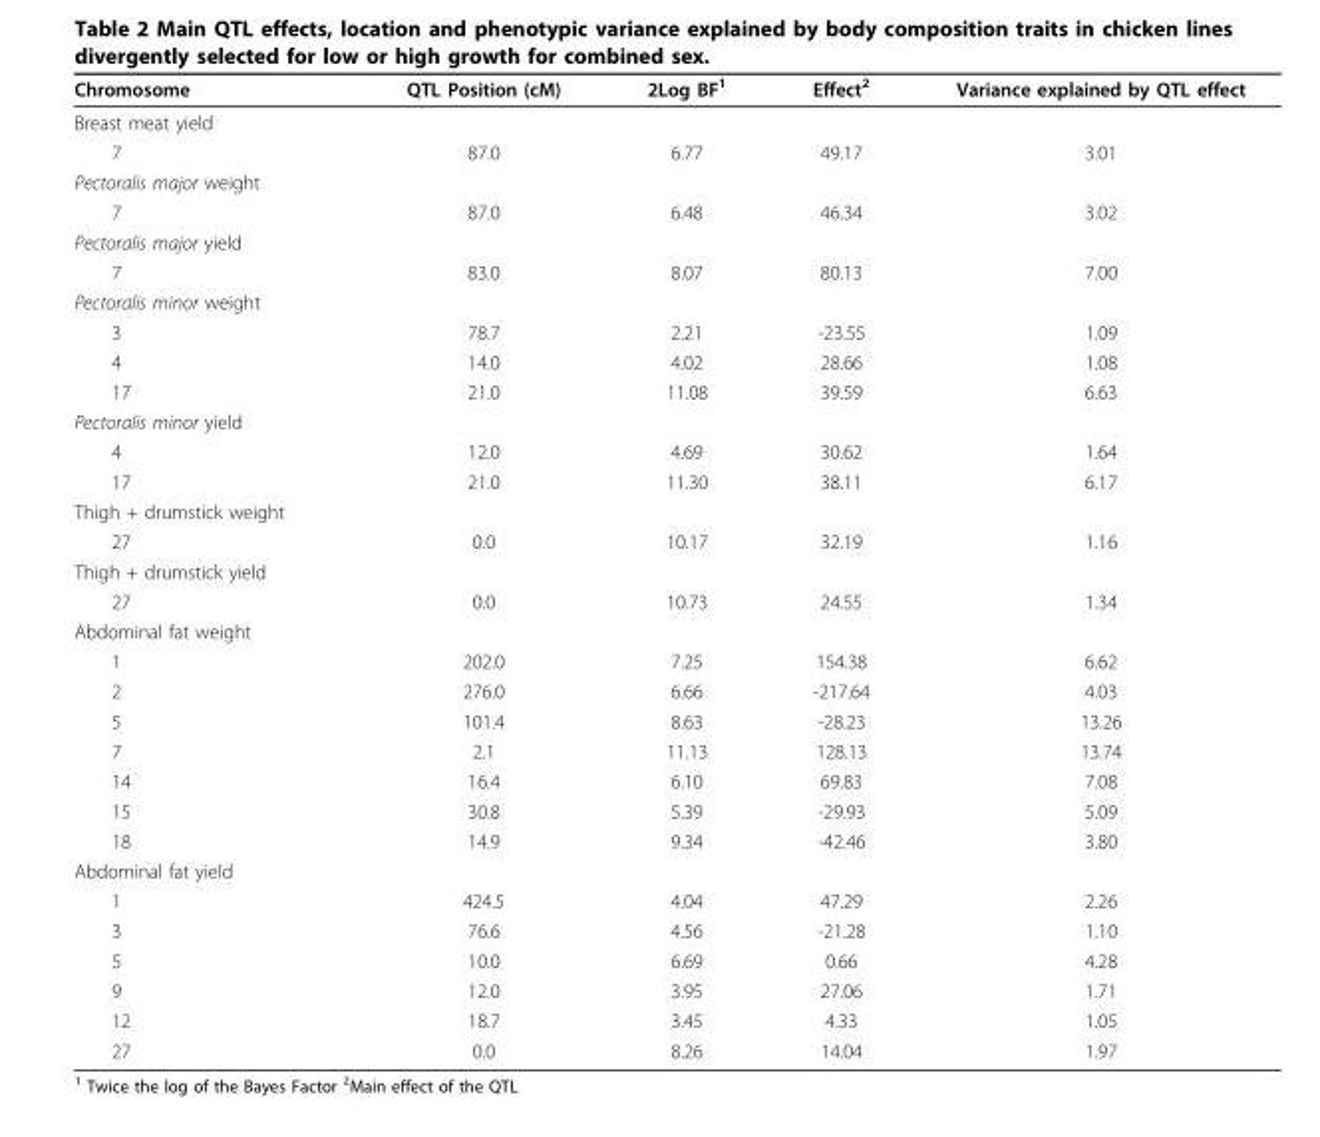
<table><thead><tr><td>Chromosome</td><td>QTL Position (cM)</td><td>2Log BF<sup>1</sup></td><td>Effect<sup>2</sup></td><td>Variance explained by QTL effect</td></tr></thead><tbody><tr><td colspan="5">Breast meat yield</td></tr><tr><td>7</td><td>87.0</td><td>6.77</td><td>49.17</td><td>3.01</td></tr><tr><td colspan="5">Pectoralis major weight</td></tr><tr><td>7</td><td>87.0</td><td>6.48</td><td>46.34</td><td>3.02</td></tr><tr><td colspan="5">Pectoralis major yield</td></tr><tr><td>7</td><td>83.0</td><td>8.07</td><td>80.13</td><td>7.00</td></tr><tr><td colspan="5">Pectoralis minor weight</td></tr><tr><td>3</td><td>78.7</td><td>2.21</td><td>-23.55</td><td>1.09</td></tr><tr><td>4</td><td>14.0</td><td>4.02</td><td>28.66</td><td>1.08</td></tr><tr><td>17</td><td>21.0</td><td>11.08</td><td>39.59</td><td>6.63</td></tr><tr><td colspan="5">Pectoralis minor yield</td></tr><tr><td>4</td><td>12.0</td><td>4.69</td><td>30.62</td><td>1.64</td></tr><tr><td>17</td><td>21.0</td><td>11.30</td><td>38.11</td><td>6.17</td></tr><tr><td colspan="5">Thigh + drumstick weight</td></tr><tr><td>27</td><td>0.0</td><td>10.17</td><td>32.19</td><td>1.16</td></tr><tr><td colspan="5">Thigh + drumstick yield</td></tr><tr><td>27</td><td>0.0</td><td>10.73</td><td>24.55</td><td>1.34</td></tr><tr><td colspan="5">Abdominal fat weight</td></tr><tr><td>1</td><td>202.0</td><td>7.25</td><td>154.38</td><td>6.62</td></tr><tr><td>2</td><td>276.0</td><td>6.66</td><td>-217.64</td><td>4.03</td></tr><tr><td>5</td><td>101.4</td><td>8.63</td><td>-28.23</td><td>13.26</td></tr><tr><td>7</td><td>2.1</td><td>11.13</td><td>128.13</td><td>13.74</td></tr><tr><td>14</td><td>16.4</td><td>6.10</td><td>69.83</td><td>7.08</td></tr><tr><td>15</td><td>30.8</td><td>5.39</td><td>-29.93</td><td>5.09</td></tr><tr><td>18</td><td>14.9</td><td>9.34</td><td>-42.46</td><td>3.80</td></tr><tr><td colspan="5">Abdominal fat yield</td></tr><tr><td>1</td><td>424.5</td><td>4.04</td><td>47.29</td><td>2.26</td></tr><tr><td>3</td><td>76.6</td><td>4.56</td><td>-21.28</td><td>1.10</td></tr><tr><td>5</td><td>10.0</td><td>6.69</td><td>0.66</td><td>4.28</td></tr><tr><td>9</td><td>12.0</td><td>3.95</td><td>27.06</td><td>1.71</td></tr><tr><td>12</td><td>18.7</td><td>3.45</td><td>4.33</td><td>1.05</td></tr><tr><td>27</td><td>0.0</td><td>8.26</td><td>14.04</td><td>1.97</td></tr></tbody></table>